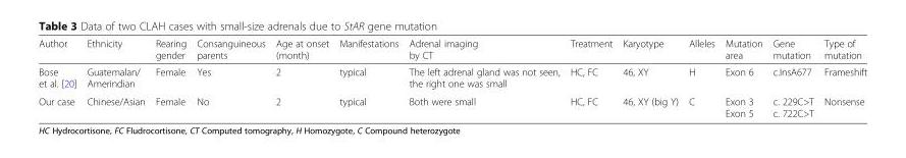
<table><thead><tr><td>Author</td><td>Ethnicity</td><td>Rearing gender</td><td>Consanguineous parents</td><td>Age at onset (month)</td><td>Manifestations</td><td>Adrenal imaging by CT</td><td>Treatment</td><td>Karyotype</td><td>Alleles</td><td>Mutation area</td><td>Gene mutation</td><td>Type of mutation</td></tr></thead><tbody><tr><td>Bose et al. [20]</td><td>Guatemalan/ Amerindian</td><td>Female</td><td>Yes</td><td>2</td><td>typical</td><td>The left adrenal gland was not seen, the right one was small</td><td>HC, FC</td><td>46, XY</td><td>H</td><td>Exon 6</td><td>c.InsA677</td><td>Frameshift</td></tr><tr><td>Our case</td><td>Chinese/Asian</td><td>Female</td><td>No</td><td>2</td><td>typical</td><td>Both were small</td><td>HC, FC</td><td>46, XY (big Y)</td><td>C</td><td>Exon 3 Exon 5</td><td>c. 229C&gt;T c. 722C&gt;T</td><td>Nonsense</td></tr></tbody></table>